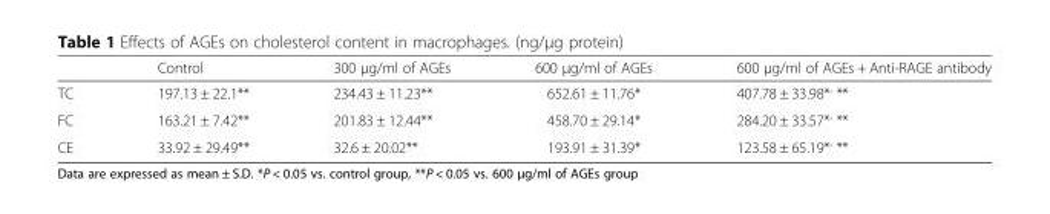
<table><thead><tr><td></td><td>Control</td><td>300 μg/ml of AGEs</td><td>600 μg/ml of AGEs</td><td>600 μg/ml of AGEs + Anti-RAGE antibody</td></tr></thead><tbody><tr><td>TC</td><td>197.13 ± 22.1**</td><td>234.43 ± 11.23**</td><td>652.61 ± 11.76*</td><td>407.78 ± 33.98*<sup>,</sup> **</td></tr><tr><td>FC</td><td>163.21 ± 7.42**</td><td>201.83 ± 12.44**</td><td>458.70 ± 29.14*</td><td>284.20 ± 33.57*<sup>,</sup> **</td></tr><tr><td>CE</td><td>33.92 ± 29.49**</td><td>32.6 ± 20.02**</td><td>193.91 ± 31.39*</td><td>123.58 ± 65.19*<sup>,</sup> **</td></tr></tbody></table>